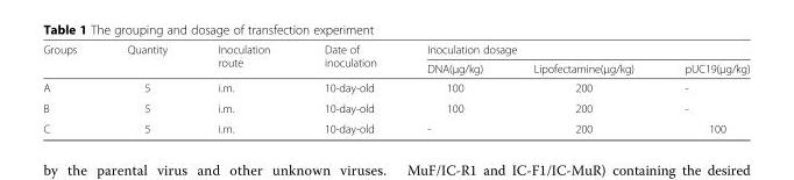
<table><thead><tr><td rowspan="2">Groups</td><td rowspan="2">Quantity</td><td rowspan="2">Inoculation route</td><td rowspan="2">Date of inoculation</td><td colspan="3">Inoculation dosage</td></tr><tr><td>DNA(μg/kg)</td><td>Lipofectamine(μg/kg)</td><td>pUC19(μg/kg)</td></tr></thead><tbody><tr><td>A</td><td>5</td><td>i.m.</td><td>10-day-old</td><td>100</td><td>200</td><td>-</td></tr><tr><td>B</td><td>5</td><td>i.m.</td><td>10-day-old</td><td>100</td><td>200</td><td>-</td></tr><tr><td>C</td><td>5</td><td>i.m.</td><td>10-day-old</td><td>-</td><td>200</td><td>100</td></tr></tbody></table>